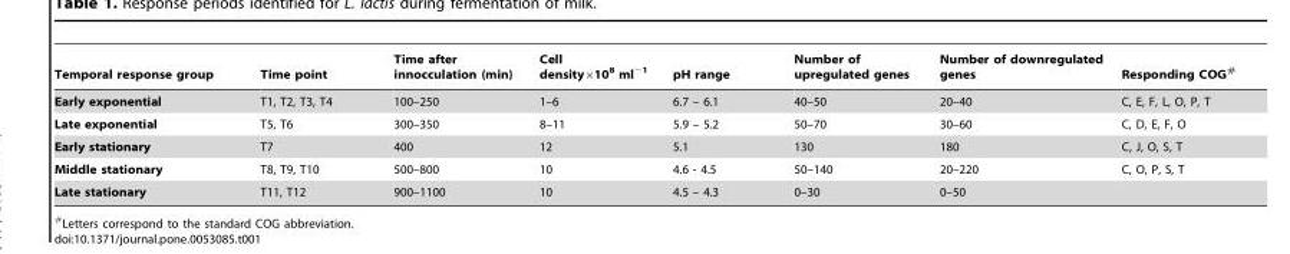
<table><thead><tr><td>Temporal response group</td><td>Time point</td><td>Time after innocculation (min)</td><td>Cell density×10<sup>8</sup> ml<sup>−1</sup></td><td>pH range</td><td>Number of upregulated genes</td><td>Number of downregulated genes</td><td>Responding COG#</td></tr></thead><tbody><tr><td>Early exponential</td><td>T1, T2, T3, T4</td><td>100–250</td><td>1–6</td><td>6.7 – 6.1</td><td>40–50</td><td>20–40</td><td>C, E, F, L, O, P, T</td></tr><tr><td>Late exponential</td><td>T5, T6</td><td>300–350</td><td>8–11</td><td>5.9 – 5.2</td><td>50–70</td><td>30–60</td><td>C, D, E, F, O</td></tr><tr><td>Early stationary</td><td>T7</td><td>400</td><td>12</td><td>5.1</td><td>130</td><td>180</td><td>C, J, O, S, T</td></tr><tr><td>Middle stationary</td><td>T8, T9, T10</td><td>500–800</td><td>10</td><td>4.6 - 4.5</td><td>50–140</td><td>20–220</td><td>C, O, P, S, T</td></tr><tr><td>Late stationary</td><td>T11, T12</td><td>900–1100</td><td>10</td><td>4.5 – 4.3</td><td>0–30</td><td>0–50</td><td></td></tr></tbody></table>